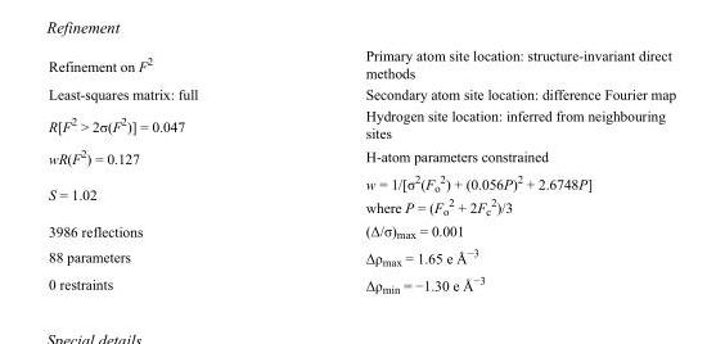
<table><tbody><tr><td>Refinement on F<sup>2</sup></td><td>Primary atom site location: structure-invariant direct methods</td></tr><tr><td>Least-squares matrix: full</td><td>Secondary atom site location: difference Fourier map</td></tr><tr><td>R[F<sup>2</sup> &gt; 2σ(F<sup>2</sup>)] = 0.047</td><td>Hydrogen site location: inferred from neighbouring sites</td></tr><tr><td>wR(F<sup>2</sup>) = 0.127</td><td>H-atom parameters constrained</td></tr><tr><td>S = 1.02</td><td>w = 1/[σ<sup>2</sup>(F<sub>o</sub> <sup>2</sup>) + (0.056P)<sup>2</sup> + 2.6748P] where P = (F<sub>o</sub> <sup>2</sup> + 2F<sub>c</sub> <sup>2</sup>)/3</td></tr><tr><td>3986 reflections</td><td>(Δ/σ)<sub>max</sub> = 0.001</td></tr><tr><td>88 parameters</td><td>Δρ<sub>max</sub> = 1.65 e Å<sup>−3</sup></td></tr><tr><td>0 restraints</td><td>Δρ<sub>min</sub> = −1.30 e Å<sup>−3</sup></td></tr></tbody></table>